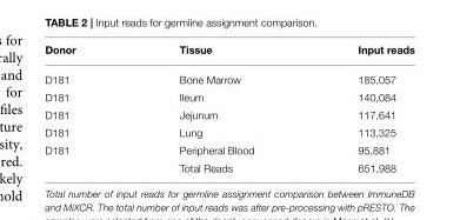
<table><thead><tr><td>Donor</td><td>Tissue</td><td>Input reads</td></tr></thead><tbody><tr><td>D181</td><td>Bone Marrow</td><td>185,057</td></tr><tr><td>D181</td><td>Ileum</td><td>140,084</td></tr><tr><td>D181</td><td>Jejunum</td><td>117,641</td></tr><tr><td>D181</td><td>Lung</td><td>113,325</td></tr><tr><td rowspan="2">D181</td><td>Peripheral Blood</td><td>95,881</td></tr><tr><td>Total Reads</td><td>651,988</td></tr></tbody></table>